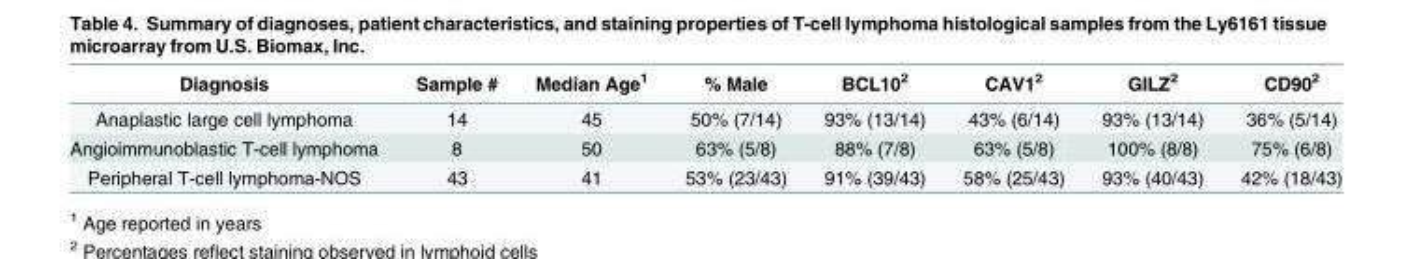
<table><thead><tr><td>Diagnosis</td><td>Sample #</td><td>Median Age<sup>1</sup></td><td>% Male</td><td>BCL10<sup>2</sup></td><td>CAV1<sup>2</sup></td><td>GILZ<sup>2</sup></td><td>CD90<sup>2</sup></td></tr></thead><tbody><tr><td>Anaplastic large cell lymphoma</td><td>14</td><td>45</td><td>50% (7/14)</td><td>93% (13/14)</td><td>43% (6/14)</td><td>93% (13/14)</td><td>36% (5/14)</td></tr><tr><td>Angioimmunoblastic T-cell lymphoma</td><td>8</td><td>50</td><td>63% (5/8)</td><td>88% (7/8)</td><td>63% (5/8)</td><td>100% (8/8)</td><td>75% (6/8)</td></tr><tr><td>Peripheral T-cell lymphoma-NOS</td><td>43</td><td>41</td><td>53% (23/43)</td><td>91% (39/43)</td><td>58% (25/43)</td><td>93% (40/43)</td><td>42% (18/43)</td></tr></tbody></table>